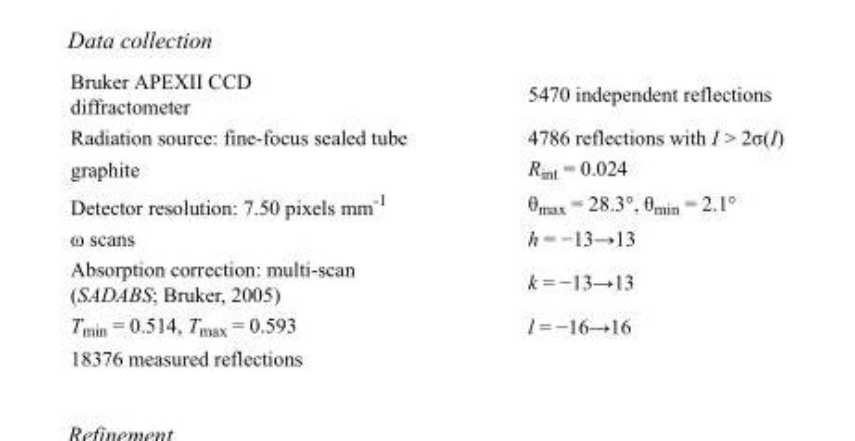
<table><tbody><tr><td>Bruker APEXII CCD diffractometer</td><td>5470 independent reflections</td></tr><tr><td>Radiation source: fine-focus sealed tube</td><td>4786 reflections with I &gt; 2σ(I)</td></tr><tr><td>graphite</td><td>R<sub>int</sub> = 0.024</td></tr><tr><td>Detector resolution: 7.50 pixels mm<sup>-1</sup></td><td>θ<sub>max</sub> = 28.3°, θ<sub>min</sub> = 2.1°</td></tr><tr><td>ω scans</td><td>h = −13→13</td></tr><tr><td>Absorption correction: multi-scan (SADABS; Bruker, 2005)</td><td>k = −13→13</td></tr><tr><td>T<sub>min</sub> = 0.514, T<sub>max</sub> = 0.593</td><td>l = −16→16</td></tr><tr><td>18376 measured reflections</td><td></td></tr></tbody></table>